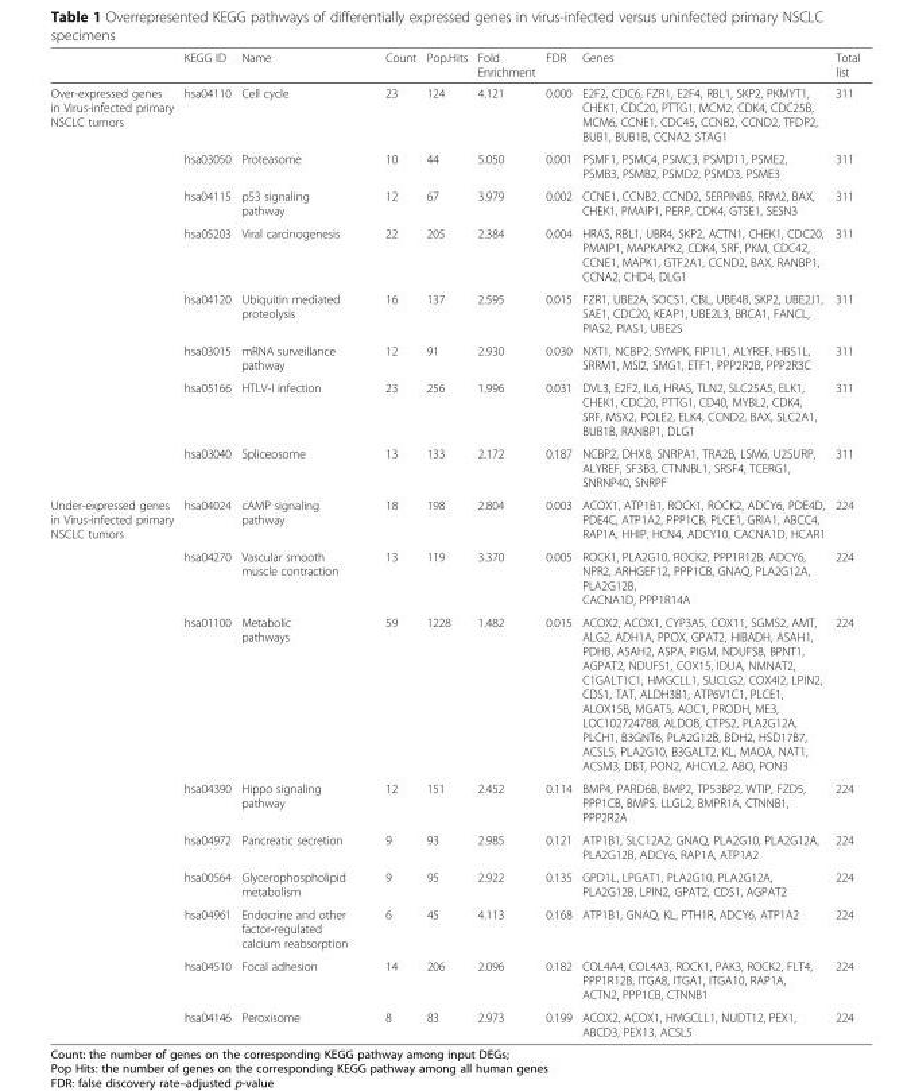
<table><thead><tr><td></td><td>KEGG ID</td><td>Name</td><td>Count</td><td>Pop.Hits</td><td>Fold Enrichment</td><td>FDR</td><td>Genes</td><td>Total list</td></tr></thead><tbody><tr><td rowspan="8">Over-expressed genes in Virus-infected primary NSCLC tumors</td><td>hsa04110</td><td>Cell cycle</td><td>23</td><td>124</td><td>4.121</td><td>0.000</td><td>E2F2, CDC6, FZR1, E2F4, RBL1, SKP2, PKMYT1, CHEK1, CDC20, PTTG1, MCM2, CDK4, CDC25B, MCM6, CCNE1, CDC45, CCNB2, CCND2, TFDP2, BUB1, BUB1B, CCNA2, STAG1</td><td>311</td></tr><tr><td>hsa03050</td><td>Proteasome</td><td>10</td><td>44</td><td>5.050</td><td>0.001</td><td>PSMF1, PSMC4, PSMC3, PSMD11, PSME2, PSMB3, PSMB2, PSMD2, PSMD3, PSME3</td><td>311</td></tr><tr><td>hsa04115</td><td>p53 signaling pathway</td><td>12</td><td>67</td><td>3.979</td><td>0.002</td><td>CCNE1, CCNB2, CCND2, SERPINB5, RRM2, BAX, CHEK1, PMAIP1, PERP, CDK4, GTSE1, SESN3</td><td>311</td></tr><tr><td>hsa05203</td><td>Viral carcinogenesis</td><td>22</td><td>205</td><td>2.384</td><td>0.004</td><td>HRAS, RBL1, UBR4, SKP2, ACTN1, CHEK1, CDC20, PMAIP1, MAPKAPK2, CDK4, SRF, PKM, CDC42, CCNE1, MAPK1, GTF2A1, CCND2, BAX, RANBP1, CCNA2, CHD4, DLG1</td><td>311</td></tr><tr><td>hsa04120</td><td>Ubiquitin mediated proteolysis</td><td>16</td><td>137</td><td>2.595</td><td>0.015</td><td>FZR1, UBE2A, SOCS1, CBL, UBE4B, SKP2, UBE2J1, SAE1, CDC20, KEAP1, UBE2L3, BRCA1, FANCL, PIAS2, PIAS1, UBE2S</td><td>311</td></tr><tr><td>hsa03015</td><td>mRNA surveillance pathway</td><td>12</td><td>91</td><td>2.930</td><td>0.030</td><td>NXT1, NCBP2, SYMPK, FIP1L1, ALYREF, HBS1L, SRRM1, MSI2, SMG1, ETF1, PPP2R2B, PPP2R3C</td><td>311</td></tr><tr><td>hsa05166</td><td>HTLV-I infection</td><td>23</td><td>256</td><td>1.996</td><td>0.031</td><td>DVL3, E2F2, IL6, HRAS, TLN2, SLC25A5, ELK1, CHEK1, CDC20, PTTG1, CD40, MYBL2, CDK4, SRF, MSX2, POLE2, ELK4, CCND2, BAX, SLC2A1, BUB1B, RANBP1, DLG1</td><td>311</td></tr><tr><td>hsa03040</td><td>Spliceosome</td><td>13</td><td>133</td><td>2.172</td><td>0.187</td><td>NCBP2, DHX8, SNRPA1, TRA2B, LSM6, U2SURP, ALYREF, SF3B3, CTNNBL1, SRSF4, TCERG1, SNRNP40, SNRPF</td><td>311</td></tr><tr><td rowspan="9">Under-expressed genes in Virus-infected primary NSCLC tumors</td><td>hsa04024</td><td>cAMP signaling pathway</td><td>18</td><td>198</td><td>2.804</td><td>0.003</td><td>ACOX1, ATP1B1, ROCK1, ROCK2, ADCY6, PDE4D, PDE4C, ATP1A2, PPP1CB, PLCE1, GRIA1, ABCC4, RAP1A, HHIP, HCN4, ADCY10, CACNA1D, HCAR1</td><td>224</td></tr><tr><td>hsa04270</td><td>Vascular smooth muscle contraction</td><td>13</td><td>119</td><td>3.370</td><td>0.005</td><td>ROCK1, PLA2G10, ROCK2, PPP1R12B, ADCY6, NPR2, ARHGEF12, PPP1CB, GNAQ, PLA2G12A, PLA2G12B, CACNA1D, PPP1R14A</td><td>224</td></tr><tr><td>hsa01100</td><td>Metabolic pathways</td><td>59</td><td>1228</td><td>1.482</td><td>0.015</td><td>ACOX2, ACOX1, CYP3A5, COX11, SGMS2, AMT, ALG2, ADH1A, PPOX, GPAT2, HIBADH, ASAH1, PDHB, ASAH2, ASPA, PIGM, NDUFS8, BPNT1, AGPAT2, NDUFS1, COX15, IDUA, NMNAT2, C1GALT1C1, HMGCLL1, SUCLG2, COX4I2, LPIN2, CDS1, TAT, ALDH3B1, ATP6V1C1, PLCE1, ALOX15B, MGAT5, AOC1, PRODH, ME3, LOC102724788, ALDOB, CTPS2, PLA2G12A, PLCH1, B3GNT6, PLA2G12B, BDH2, HSD17B7, ACSL5, PLA2G10, B3GALT2, KL, MAOA, NAT1, ACSM3, DBT, PON2, AHCYL2, ABO, PON3</td><td>224</td></tr><tr><td>hsa04390</td><td>Hippo signaling pathway</td><td>12</td><td>151</td><td>2.452</td><td>0.114</td><td>BMP4, PARD6B, BMP2, TP53BP2, WTIP, FZD5, PPP1CB, BMP5, LLGL2, BMPR1A, CTNNB1, PPP2R2A</td><td>224</td></tr><tr><td>hsa04972</td><td>Pancreatic secretion</td><td>9</td><td>93</td><td>2.985</td><td>0.121</td><td>ATP1B1, SLC12A2, GNAQ, PLA2G10, PLA2G12A, PLA2G12B, ADCY6, RAP1A, ATP1A2</td><td>224</td></tr><tr><td>hsa00564</td><td>Glycerophospholipid metabolism</td><td>9</td><td>95</td><td>2.922</td><td>0.135</td><td>GPD1L, LPGAT1, PLA2G10, PLA2G12A, PLA2G12B, LPIN2, GPAT2, CDS1, AGPAT2</td><td>224</td></tr><tr><td>hsa04961</td><td>Endocrine and other factor-regulated calcium reabsorption</td><td>6</td><td>45</td><td>4.113</td><td>0.168</td><td>ATP1B1, GNAQ, KL, PTH1R, ADCY6, ATP1A2</td><td>224</td></tr><tr><td>hsa04510</td><td>Focal adhesion</td><td>14</td><td>206</td><td>2.096</td><td>0.182</td><td>COL4A4, COL4A3, ROCK1, PAK3, ROCK2, FLT4, PPP1R12B, ITGA8, ITGA1, ITGA10, RAP1A, ACTN2, PPP1CB, CTNNB1</td><td>224</td></tr><tr><td>hsa04146</td><td>Peroxisome</td><td>8</td><td>83</td><td>2.973</td><td>0.199</td><td>ACOX2, ACOX1, HMGCLL1, NUDT12, PEX1, ABCD3, PEX13, ACSL5</td><td>224</td></tr></tbody></table>